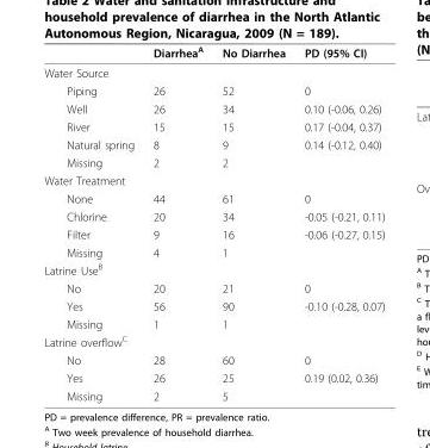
<table><thead><tr><td></td><td>Diarrhea<sup>A</sup></td><td>No Diarrhea</td><td>PD (95% CI)</td></tr></thead><tbody><tr><td colspan="4">Water Source</td></tr><tr><td>Piping</td><td>26</td><td>52</td><td>0</td></tr><tr><td>Well</td><td>26</td><td>34</td><td>0.10 (-0.06, 0.26)</td></tr><tr><td>River</td><td>15</td><td>15</td><td>0.17 (-0.04, 0.37)</td></tr><tr><td>Natural spring</td><td>8</td><td>9</td><td>0.14 (-0.12, 0.40)</td></tr><tr><td>Missing</td><td>2</td><td>2</td><td></td></tr><tr><td colspan="4">Water Treatment</td></tr><tr><td>None</td><td>44</td><td>61</td><td>0</td></tr><tr><td>Chlorine</td><td>20</td><td>34</td><td>-0.05 (-0.21, 0.11)</td></tr><tr><td>Filter</td><td>9</td><td>16</td><td>-0.06 (-0.27, 0.15)</td></tr><tr><td>Missing</td><td>4</td><td>1</td><td></td></tr><tr><td colspan="4">Latrine Use<sup>B</sup></td></tr><tr><td>No</td><td>20</td><td>21</td><td>0</td></tr><tr><td>Yes</td><td>56</td><td>90</td><td>-0.10 (-0.28, 0.07)</td></tr><tr><td>Missing</td><td>1</td><td>1</td><td></td></tr><tr><td colspan="4">Latrine overflow<sup>C</sup></td></tr><tr><td>No</td><td>28</td><td>60</td><td>0</td></tr><tr><td>Yes</td><td>26</td><td>25</td><td>0.19 (0.02, 0.36)</td></tr><tr><td>Missing</td><td>2</td><td>5</td><td></td></tr></tbody></table>